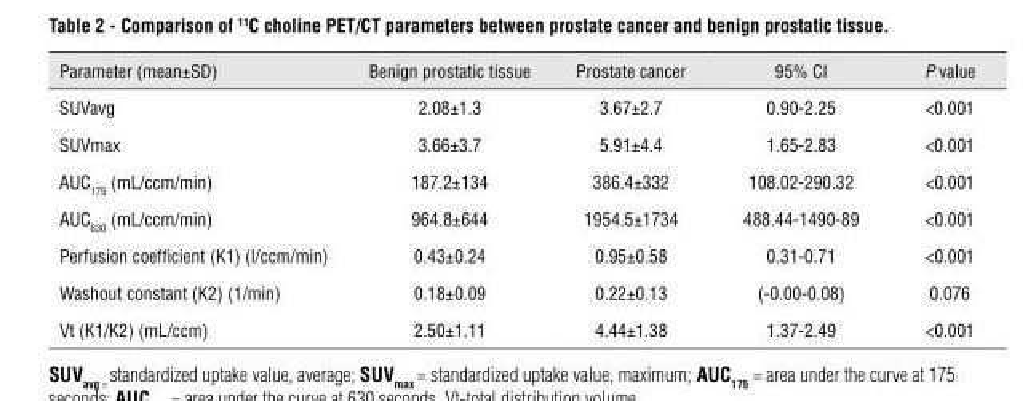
<table><thead><tr><td>Parameter (mean±SD)</td><td>Benign prostatic tissue</td><td>Prostate cancer</td><td>95% CI</td><td>P value</td></tr></thead><tbody><tr><td>SUVavg</td><td>2.08±1.3</td><td>3.67±2.7</td><td>0.90-2.25</td><td>&lt;0.001</td></tr><tr><td>SUVmax</td><td>3.66±3.7</td><td>5.91±4.4</td><td>1.65-2.83</td><td>&lt;0.001</td></tr><tr><td>AUC<sub>175</sub> (mL/ccm/min)</td><td>187.2±134</td><td>386.4±332</td><td>108.02-290.32</td><td>&lt;0.001</td></tr><tr><td>AUC<sub>630</sub> (mL/ccm/min)</td><td>964.8±644</td><td>1954.5±1734</td><td>488.44-1490-89</td><td>&lt;0.001</td></tr><tr><td>Perfusion coefficient (K1) (l/ccm/min)</td><td>0.43±0.24</td><td>0.95±0.58</td><td>0.31-0.71</td><td>&lt;0.001</td></tr><tr><td>Washout constant (K2) (1/min)</td><td>0.18±0.09</td><td>0.22±0.13</td><td>(-0.00-0.08)</td><td>0.076</td></tr><tr><td>Vt (K1/K2) (mL/ccm)</td><td>2.50±1.11</td><td>4.44±1.38</td><td>1.37-2.49</td><td>&lt;0.001</td></tr></tbody></table>